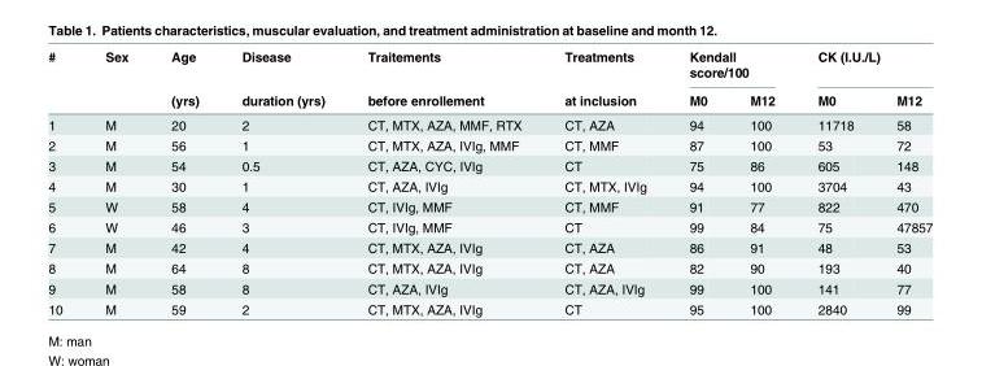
<table><thead><tr><td rowspan="2">#</td><td rowspan="2">Sex</td><td rowspan="2">Age (yrs)</td><td rowspan="2">Disease duration (yrs)</td><td rowspan="2">Traitements before enrollement</td><td rowspan="2">Treatments at inclusion</td><td colspan="2">Kendall score/100</td><td colspan="2">CK (I.U./L)</td></tr><tr><td>M0</td><td>M12</td><td>M0</td><td>M12</td></tr></thead><tbody><tr><td>1</td><td>M</td><td>20</td><td>2</td><td>CT, MTX, AZA, MMF, RTX</td><td>CT, AZA</td><td>94</td><td>100</td><td>11718</td><td>58</td></tr><tr><td>2</td><td>M</td><td>56</td><td>1</td><td>CT, MTX, AZA, IVIg, MMF</td><td>CT, MMF</td><td>87</td><td>100</td><td>53</td><td>72</td></tr><tr><td>3</td><td>M</td><td>54</td><td>0.5</td><td>CT, AZA, CYC, IVIg</td><td>CT</td><td>75</td><td>86</td><td>605</td><td>148</td></tr><tr><td>4</td><td>M</td><td>30</td><td>1</td><td>CT, AZA, IVIg</td><td>CT, MTX, IVIg</td><td>94</td><td>100</td><td>3704</td><td>43</td></tr><tr><td>5</td><td>W</td><td>58</td><td>4</td><td>CT, IVIg, MMF</td><td>CT, MMF</td><td>91</td><td>77</td><td>822</td><td>470</td></tr><tr><td>6</td><td>W</td><td>46</td><td>3</td><td>CT, IVIg, MMF</td><td>CT</td><td>99</td><td>84</td><td>75</td><td>47857</td></tr><tr><td>7</td><td>M</td><td>42</td><td>4</td><td>CT, MTX, AZA, IVIg</td><td>CT, AZA</td><td>86</td><td>91</td><td>48</td><td>53</td></tr><tr><td>8</td><td>M</td><td>64</td><td>8</td><td>CT, MTX, AZA, IVIg</td><td>CT, AZA</td><td>82</td><td>90</td><td>193</td><td>40</td></tr><tr><td>9</td><td>M</td><td>58</td><td>8</td><td>CT, AZA, IVIg</td><td>CT, AZA, IVIg</td><td>99</td><td>100</td><td>141</td><td>77</td></tr><tr><td>10</td><td>M</td><td>59</td><td>2</td><td>CT, MTX, AZA, IVIg</td><td>CT</td><td>95</td><td>100</td><td>2840</td><td>99</td></tr></tbody></table>